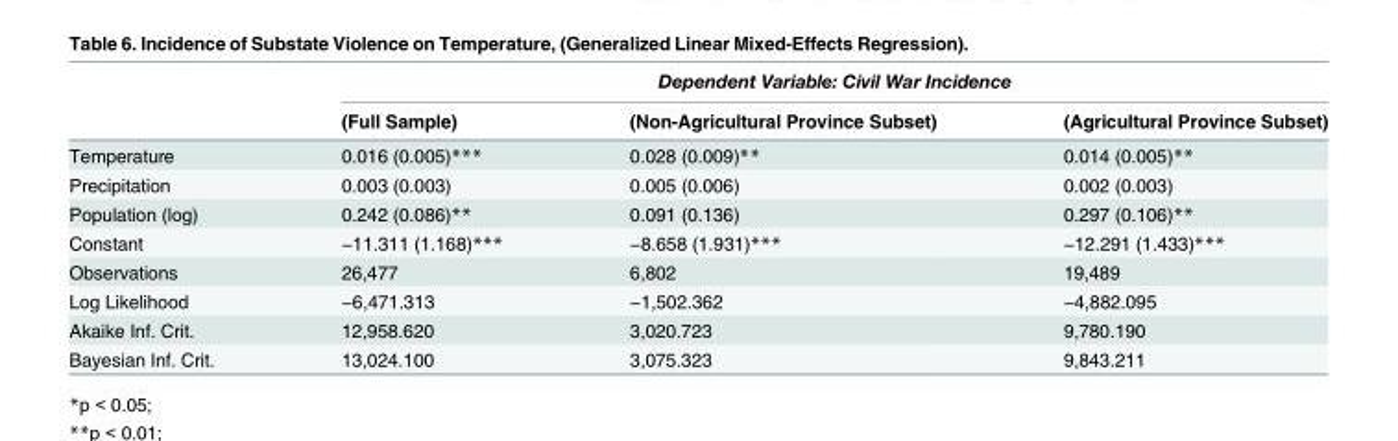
<table><thead><tr><td rowspan="2"></td><td colspan="3">Dependent Variable: Civil War Incidence</td></tr><tr><td>(Full Sample)</td><td>(Non-Agricultural Province Subset)</td><td>(Agricultural Province Subset)</td></tr></thead><tbody><tr><td>Temperature</td><td>0.016 (0.005)***</td><td>0.028 (0.009)**</td><td>0.014 (0.005)**</td></tr><tr><td>Precipitation</td><td>0.003 (0.003)</td><td>0.005 (0.006)</td><td>0.002 (0.003)</td></tr><tr><td>Population (log)</td><td>0.242 (0.086)**</td><td>0.091 (0.136)</td><td>0.297 (0.106)**</td></tr><tr><td>Constant</td><td>−11.311 (1.168)***</td><td>−8.658 (1.931)***</td><td>−12.291 (1.433)***</td></tr><tr><td>Observations</td><td>26,477</td><td>6,802</td><td>19,489</td></tr><tr><td>Log Likelihood</td><td>−6,471.313</td><td>−1,502.362</td><td>−4,882.095</td></tr><tr><td>Akaike Inf. Crit.</td><td>12,958.620</td><td>3,020.723</td><td>9,780.190</td></tr><tr><td>Bayesian Inf. Crit.</td><td>13,024.100</td><td>3,075.323</td><td>9,843.211</td></tr></tbody></table>